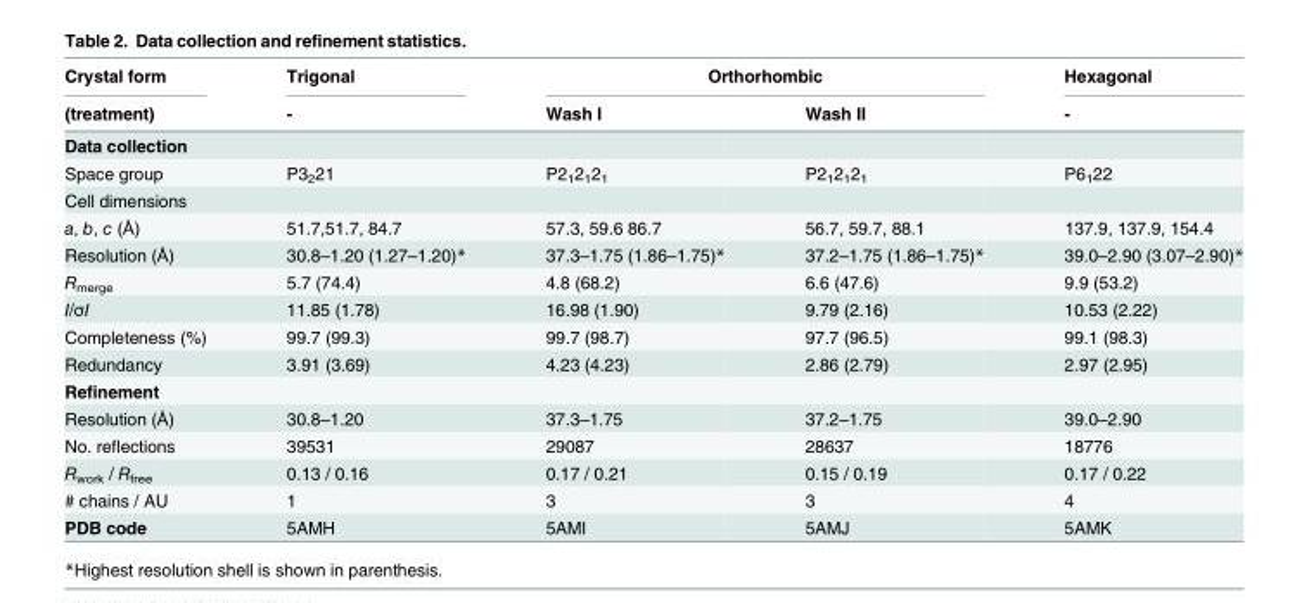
<table><thead><tr><td rowspan="2">Crystal form (treatment)</td><td rowspan="2">Trigonal -</td><td colspan="2">Orthorhombic</td><td rowspan="2">Hexagonal -</td></tr><tr><td>Wash I</td><td>Wash II</td></tr></thead><tbody><tr><td colspan="5">Data collection</td></tr><tr><td>Space group</td><td>P3<sub>2</sub>21</td><td>P2<sub>1</sub>2<sub>1</sub>2<sub>1</sub></td><td>P2<sub>1</sub>2<sub>1</sub>2<sub>1</sub></td><td>P6<sub>1</sub>22</td></tr><tr><td colspan="5">Cell dimensions</td></tr><tr><td>a, b, c (Å)</td><td>51.7,51.7, 84.7</td><td>57.3, 59.6 86.7</td><td>56.7, 59.7, 88.1</td><td>137.9, 137.9, 154.4</td></tr><tr><td>Resolution (Å)</td><td>30.8–1.20 (1.27–1.20)*</td><td>37.3–1.75 (1.86–1.75)*</td><td>37.2–1.75 (1.86–1.75)*</td><td>39.0–2.90 (3.07–2.90)*</td></tr><tr><td>R<sub>merge</sub></td><td>5.7 (74.4)</td><td>4.8 (68.2)</td><td>6.6 (47.6)</td><td>9.9 (53.2)</td></tr><tr><td>I/σI</td><td>11.85 (1.78)</td><td>16.98 (1.90)</td><td>9.79 (2.16)</td><td>10.53 (2.22)</td></tr><tr><td>Completeness (%)</td><td>99.7 (99.3)</td><td>99.7 (98.7)</td><td>97.7 (96.5)</td><td>99.1 (98.3)</td></tr><tr><td>Redundancy</td><td>3.91 (3.69)</td><td>4.23 (4.23)</td><td>2.86 (2.79)</td><td>2.97 (2.95)</td></tr><tr><td colspan="5">Refinement</td></tr><tr><td>Resolution (Å)</td><td>30.8–1.20</td><td>37.3–1.75</td><td>37.2–1.75</td><td>39.0–2.90</td></tr><tr><td>No. reflections</td><td>39531</td><td>29087</td><td>28637</td><td>18776</td></tr><tr><td>R<sub>work</sub> / R<sub>free</sub></td><td>0.13 / 0.16</td><td>0.17 / 0.21</td><td>0.15 / 0.19</td><td>0.17 / 0.22</td></tr><tr><td># chains / AU</td><td>1</td><td>3</td><td>3</td><td>4</td></tr><tr><td>PDB code</td><td>5AMH</td><td>5AMI</td><td>5AMJ</td><td>5AMK</td></tr></tbody></table>